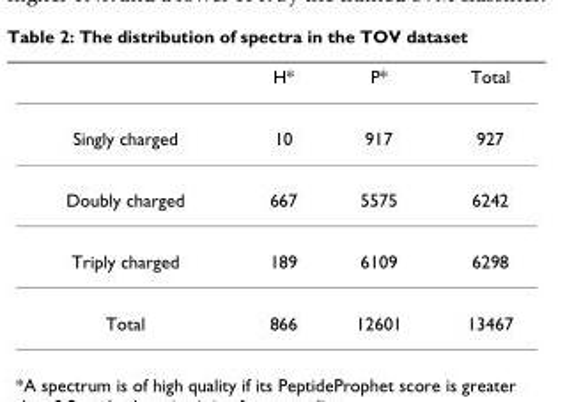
<table><thead><tr><td></td><td>H*</td><td>P*</td><td>Total</td></tr></thead><tbody><tr><td>Singly charged</td><td>10</td><td>917</td><td>927</td></tr><tr><td>Doubly charged</td><td>667</td><td>5575</td><td>6242</td></tr><tr><td>Triply charged</td><td>189</td><td>6109</td><td>6298</td></tr><tr><td>Total</td><td>866</td><td>12601</td><td>13467</td></tr></tbody></table>